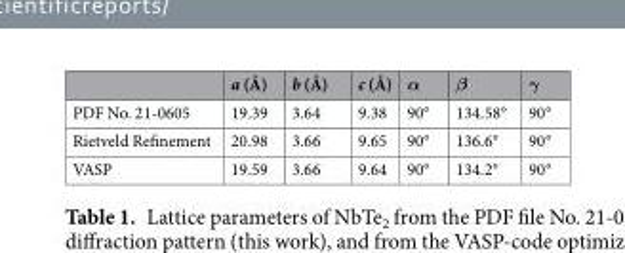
<table><thead><tr><td></td><td>a (Å)</td><td>b (Å)</td><td>c (Å)</td><td>α</td><td>β</td><td>γ</td></tr></thead><tbody><tr><td>PDF No. 21-0605</td><td>19.39</td><td>3.64</td><td>9.38</td><td>90°</td><td>134.58°</td><td>90°</td></tr><tr><td>Rietveld Refinement</td><td>20.98</td><td>3.66</td><td>9.65</td><td>90°</td><td>136.6°</td><td>90°</td></tr><tr><td>VASP</td><td>19.59</td><td>3.66</td><td>9.64</td><td>90°</td><td>134.2°</td><td>90°</td></tr></tbody></table>